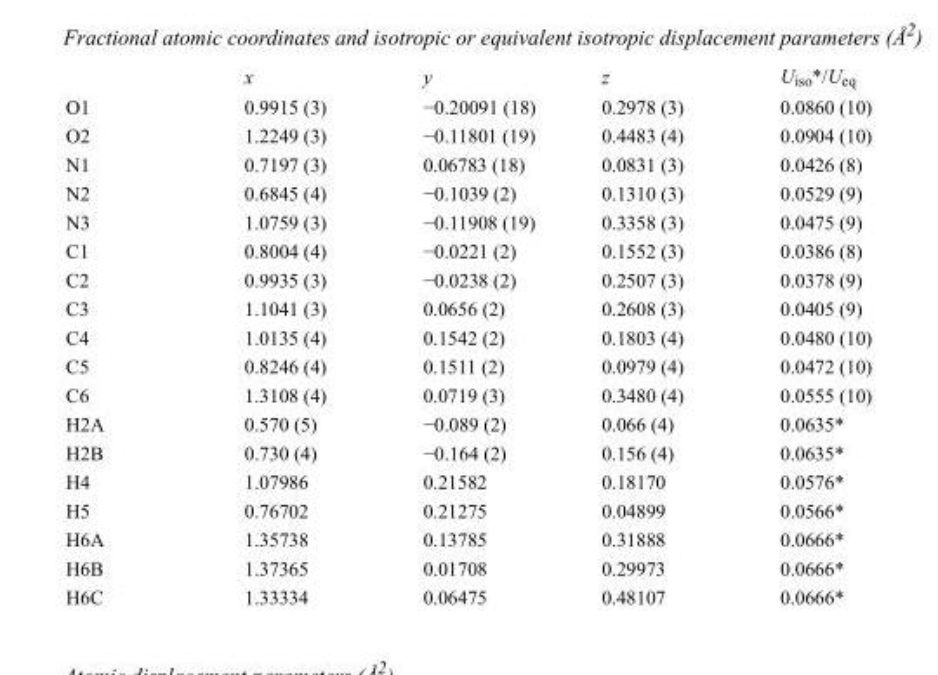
<table><thead><tr><td></td><td>x</td><td>y</td><td>z</td><td>U<sub>iso</sub>*/U<sub>eq</sub></td></tr></thead><tbody><tr><td>O1</td><td>0.9915 (3)</td><td>−0.20091 (18)</td><td>0.2978 (3)</td><td>0.0860 (10)</td></tr><tr><td>O2</td><td>1.2249 (3)</td><td>−0.11801 (19)</td><td>0.4483 (4)</td><td>0.0904 (10)</td></tr><tr><td>N1</td><td>0.7197 (3)</td><td>0.06783 (18)</td><td>0.0831 (3)</td><td>0.0426 (8)</td></tr><tr><td>N2</td><td>0.6845 (4)</td><td>−0.1039 (2)</td><td>0.1310 (3)</td><td>0.0529 (9)</td></tr><tr><td>N3</td><td>1.0759 (3)</td><td>−0.11908 (19)</td><td>0.3358 (3)</td><td>0.0475 (9)</td></tr><tr><td>C1</td><td>0.8004 (4)</td><td>−0.0221 (2)</td><td>0.1552 (3)</td><td>0.0386 (8)</td></tr><tr><td>C2</td><td>0.9935 (3)</td><td>−0.0238 (2)</td><td>0.2507 (3)</td><td>0.0378 (9)</td></tr><tr><td>C3</td><td>1.1041 (3)</td><td>0.0656 (2)</td><td>0.2608 (3)</td><td>0.0405 (9)</td></tr><tr><td>C4</td><td>1.0135 (4)</td><td>0.1542 (2)</td><td>0.1803 (4)</td><td>0.0480 (10)</td></tr><tr><td>C5</td><td>0.8246 (4)</td><td>0.1511 (2)</td><td>0.0979 (4)</td><td>0.0472 (10)</td></tr><tr><td>C6</td><td>1.3108 (4)</td><td>0.0719 (3)</td><td>0.3480 (4)</td><td>0.0555 (10)</td></tr><tr><td>H2A</td><td>0.570 (5)</td><td>−0.089 (2)</td><td>0.066 (4)</td><td>0.0635*</td></tr><tr><td>H2B</td><td>0.730 (4)</td><td>−0.164 (2)</td><td>0.156 (4)</td><td>0.0635*</td></tr><tr><td>H4</td><td>1.07986</td><td>0.21582</td><td>0.18170</td><td>0.0576*</td></tr><tr><td>H5</td><td>0.76702</td><td>0.21275</td><td>0.04899</td><td>0.0566*</td></tr><tr><td>H6A</td><td>1.35738</td><td>0.13785</td><td>0.31888</td><td>0.0666*</td></tr><tr><td>H6B</td><td>1.37365</td><td>0.01708</td><td>0.29973</td><td>0.0666*</td></tr><tr><td>H6C</td><td>1.33334</td><td>0.06475</td><td>0.48107</td><td>0.0666*</td></tr></tbody></table>